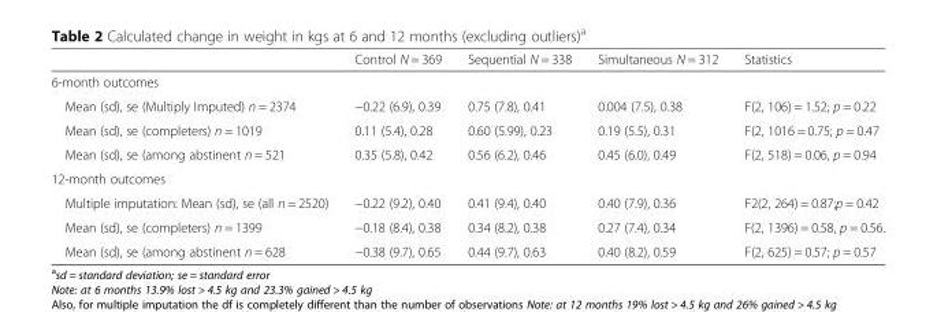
<table><thead><tr><td></td><td>Control N = 369</td><td>Sequential N = 338</td><td>Simultaneous N = 312</td><td>Statistics</td></tr></thead><tbody><tr><td colspan="5">6-month outcomes</td></tr><tr><td>Mean (sd), se (Multiply Imputed) n = 2374</td><td>−0.22 (6.9), 0.39</td><td>0.75 (7.8), 0.41</td><td>0.004 (7.5), 0.38</td><td>F(2, 106) = 1.52; p = 0.22</td></tr><tr><td>Mean (sd), se (completers) n = 1019</td><td>0.11 (5.4), 0.28</td><td>0.60 (5.99), 0.23</td><td>0.19 (5.5), 0.31</td><td>F(2, 1016 = 0.75; p = 0.47</td></tr><tr><td>Mean (sd), se (among abstinent n = 521</td><td>0.35 (5.8), 0.42</td><td>0.56 (6.2), 0.46</td><td>0.45 (6.0), 0.49</td><td>F(2, 518) = 0.06, p = 0.94</td></tr><tr><td colspan="5">12-month outcomes</td></tr><tr><td>Multiple imputation: Mean (sd), se (all n = 2520)</td><td>−0.22 (9.2), 0.40</td><td>0.41 (9.4), 0.40</td><td>0.40 (7.9), 0.36</td><td>F2(2, 264) = 0.87;p = 0.42</td></tr><tr><td>Mean (sd), se (completers) n = 1399</td><td>−0.18 (8.4), 0.38</td><td>0.34 (8.2), 0.38</td><td>0.27 (7.4), 0.34</td><td>F(2, 1396) = 0.58, p = 0.56.</td></tr><tr><td>Mean (sd), se (among abstinent n = 628</td><td>−0.38 (9.7), 0.65</td><td>0.44 (9.7), 0.63</td><td>0.40 (8.2), 0.59</td><td>F(2, 625) = 0.57; p = 0.57</td></tr></tbody></table>